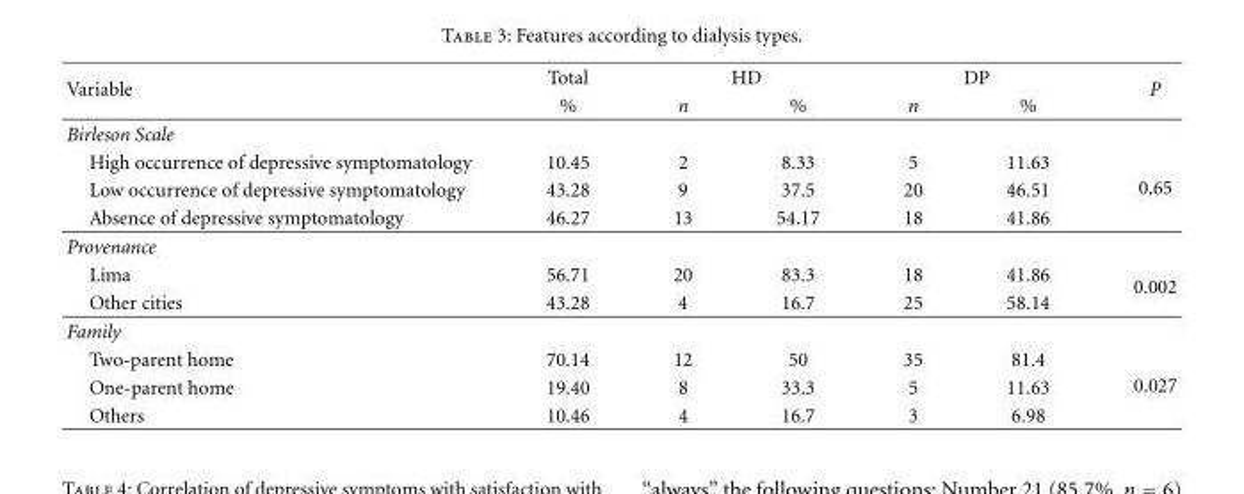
<table><thead><tr><td rowspan="2">Variable</td><td rowspan="2">Total %</td><td colspan="2">HD</td><td colspan="2">DP</td><td rowspan="2">P</td></tr><tr><td>n</td><td>%</td><td>n</td><td>%</td></tr></thead><tbody><tr><td colspan="7">Birleson Scale</td></tr><tr><td>High occurrence of depressive symptomatology</td><td>10.45</td><td>2</td><td>8.33</td><td>5</td><td>11.63</td><td rowspan="3">0.65</td></tr><tr><td>Low occurrence of depressive symptomatology</td><td>43.28</td><td>9</td><td>37.5</td><td>20</td><td>46.51</td></tr><tr><td>Absence of depressive symptomatology</td><td>46.27</td><td>13</td><td>54.17</td><td>18</td><td>41.86</td></tr><tr><td colspan="7">Provenance</td></tr><tr><td>Lima</td><td>56.71</td><td>20</td><td>83.3</td><td>18</td><td>41.86</td><td rowspan="2">0.002</td></tr><tr><td>Other cities</td><td>43.28</td><td>4</td><td>16.7</td><td>25</td><td>58.14</td></tr><tr><td colspan="7">Family</td></tr><tr><td>Two-parent home</td><td>70.14</td><td>12</td><td>50</td><td>35</td><td>81.4</td><td rowspan="3">0.027</td></tr><tr><td>One-parent home</td><td>19.40</td><td>8</td><td>33.3</td><td>5</td><td>11.63</td></tr><tr><td>Others</td><td>10.46</td><td>4</td><td>16.7</td><td>3</td><td>6.98</td></tr></tbody></table>